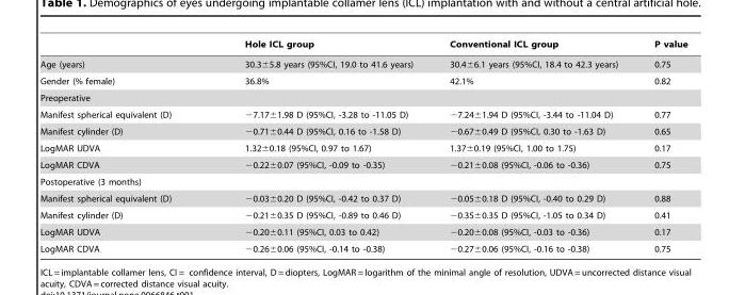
<table><thead><tr><td></td><td>Hole ICL group</td><td>Conventional ICL group</td><td>P value</td></tr></thead><tbody><tr><td>Age (years)</td><td>30.3±5.8 years (95%CI, 19.0 to 41.6 years)</td><td>30.4±6.1 years (95%CI, 18.4 to 42.3 years)</td><td>0.75</td></tr><tr><td>Gender (% female)</td><td>36.8%</td><td>42.1%</td><td>0.82</td></tr><tr><td colspan="4">Preoperative</td></tr><tr><td>Manifest spherical equivalent (D)</td><td>−7.17±1.98 D (95%CI, -3.28 to -11.05 D)</td><td>−7.24±1.94 D (95%CI, -3.44 to -11.04 D)</td><td>0.77</td></tr><tr><td>Manifest cylinder (D)</td><td>−0.71±0.44 D (95%CI, 0.16 to -1.58 D)</td><td>−0.67±0.49 D (95%CI, 0.30 to -1.63 D)</td><td>0.65</td></tr><tr><td>LogMAR UDVA</td><td>1.32±0.18 (95%CI, 0.97 to 1.67)</td><td>1.37±0.19 (95%CI, 1.00 to 1.75)</td><td>0.17</td></tr><tr><td>LogMAR CDVA</td><td>−0.22±0.07 (95%CI, -0.09 to -0.35)</td><td>−0.21±0.08 (95%CI, -0.06 to -0.36)</td><td>0.75</td></tr><tr><td colspan="4">Postoperative (3 months)</td></tr><tr><td>Manifest spherical equivalent (D)</td><td>−0.03±0.20 D (95%CI, -0.42 to 0.37 D)</td><td>−0.05±0.18 D (95%CI, -0.40 to 0.29 D)</td><td>0.88</td></tr><tr><td>Manifest cylinder (D)</td><td>−0.21±0.35 D (95%CI, -0.89 to 0.46 D)</td><td>−0.35±0.35 D (95%CI, -1.05 to 0.34 D)</td><td>0.41</td></tr><tr><td>LogMAR UDVA</td><td>−0.20±0.11 (95%CI, 0.03 to 0.42)</td><td>−0.20±0.08 (95%CI, -0.03 to -0.36)</td><td>0.17</td></tr><tr><td>LogMAR CDVA</td><td>−0.26±0.06 (95%CI, -0.14 to -0.38)</td><td>−0.27±0.06 (95%CI, -0.16 to -0.38)</td><td>0.75</td></tr></tbody></table>